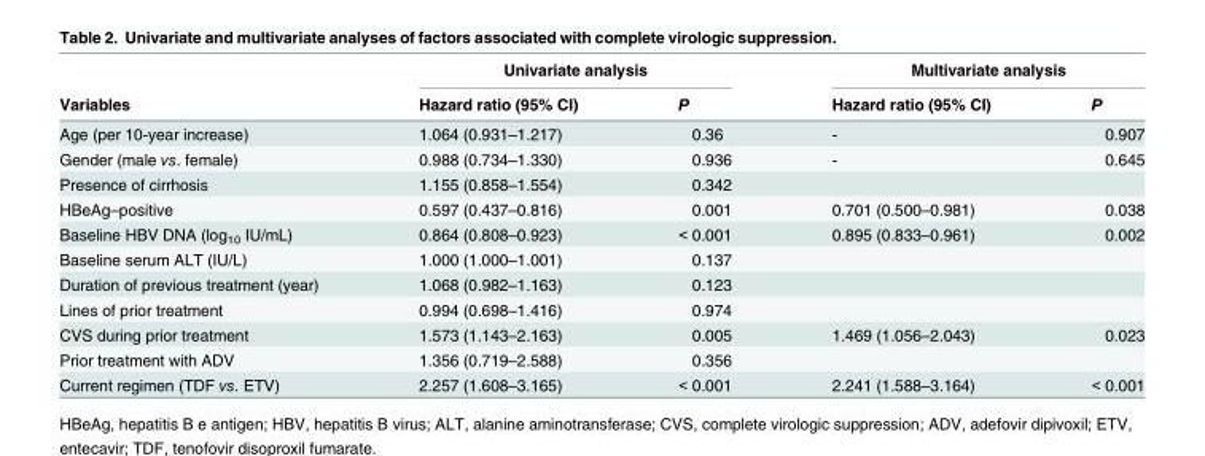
<table><thead><tr><td rowspan="2">Variables</td><td colspan="2">Univariate analysis</td><td colspan="2">Multivariate analysis</td></tr><tr><td>Hazard ratio (95% CI)</td><td>P</td><td>Hazard ratio (95% CI)</td><td>P</td></tr></thead><tbody><tr><td>Age (per 10-year increase)</td><td>1.064 (0.931–1.217)</td><td>0.36</td><td>-</td><td>0.907</td></tr><tr><td>Gender (male vs. female)</td><td>0.988 (0.734–1.330)</td><td>0.936</td><td>-</td><td>0.645</td></tr><tr><td>Presence of cirrhosis</td><td>1.155 (0.858–1.554)</td><td>0.342</td><td></td><td></td></tr><tr><td>HBeAg–positive</td><td>0.597 (0.437–0.816)</td><td>0.001</td><td>0.701 (0.500–0.981)</td><td>0.038</td></tr><tr><td>Baseline HBV DNA (log<sub>10</sub> IU/mL)</td><td>0.864 (0.808–0.923)</td><td>&lt; 0.001</td><td>0.895 (0.833–0.961)</td><td>0.002</td></tr><tr><td>Baseline serum ALT (IU/L)</td><td>1.000 (1.000–1.001)</td><td>0.137</td><td></td><td></td></tr><tr><td>Duration of previous treatment (year)</td><td>1.068 (0.982–1.163)</td><td>0.123</td><td></td><td></td></tr><tr><td>Lines of prior treatment</td><td>0.994 (0.698–1.416)</td><td>0.974</td><td></td><td></td></tr><tr><td>CVS during prior treatment</td><td>1.573 (1.143–2.163)</td><td>0.005</td><td>1.469 (1.056–2.043)</td><td>0.023</td></tr><tr><td>Prior treatment with ADV</td><td>1.356 (0.719–2.588)</td><td>0.356</td><td></td><td></td></tr><tr><td>Current regimen (TDF vs. ETV)</td><td>2.257 (1.608–3.165)</td><td>&lt; 0.001</td><td>2.241 (1.588–3.164)</td><td>&lt; 0.001</td></tr></tbody></table>